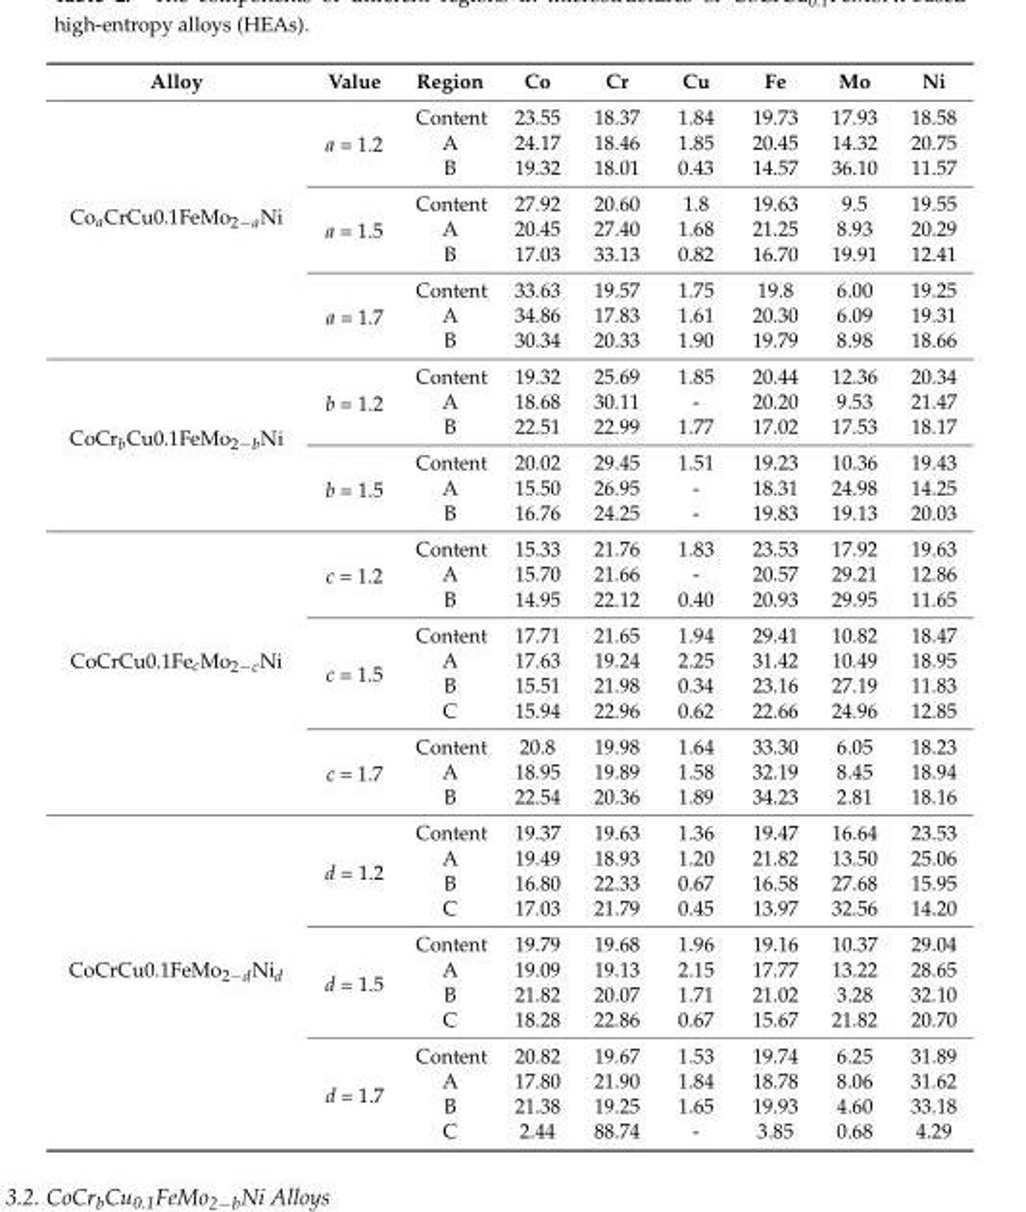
<table><thead><tr><td>Alloy</td><td>Value</td><td>Region</td><td>Co</td><td>Cr</td><td>Cu</td><td>Fe</td><td>Mo</td><td>Ni</td></tr></thead><tbody><tr><td rowspan="9">Co<sub>a</sub>CrCu0.1FeMo<sub>2−a</sub>Ni</td><td rowspan="3">a = 1.2</td><td>Content</td><td>23.55</td><td>18.37</td><td>1.84</td><td>19.73</td><td>17.93</td><td>18.58</td></tr><tr><td>A</td><td>24.17</td><td>18.46</td><td>1.85</td><td>20.45</td><td>14.32</td><td>20.75</td></tr><tr><td>B</td><td>19.32</td><td>18.01</td><td>0.43</td><td>14.57</td><td>36.10</td><td>11.57</td></tr><tr><td rowspan="3">a = 1.5</td><td>Content</td><td>27.92</td><td>20.60</td><td>1.8</td><td>19.63</td><td>9.5</td><td>19.55</td></tr><tr><td>A</td><td>20.45</td><td>27.40</td><td>1.68</td><td>21.25</td><td>8.93</td><td>20.29</td></tr><tr><td>B</td><td>17.03</td><td>33.13</td><td>0.82</td><td>16.70</td><td>19.91</td><td>12.41</td></tr><tr><td rowspan="3">a = 1.7</td><td>Content</td><td>33.63</td><td>19.57</td><td>1.75</td><td>19.8</td><td>6.00</td><td>19.25</td></tr><tr><td>A</td><td>34.86</td><td>17.83</td><td>1.61</td><td>20.30</td><td>6.09</td><td>19.31</td></tr><tr><td>B</td><td>30.34</td><td>20.33</td><td>1.90</td><td>19.79</td><td>8.98</td><td>18.66</td></tr><tr><td rowspan="6">CoCr<sub>b</sub>Cu0.1FeMo<sub>2−b</sub>Ni</td><td rowspan="3">b = 1.2</td><td>Content</td><td>19.32</td><td>25.69</td><td>1.85</td><td>20.44</td><td>12.36</td><td>20.34</td></tr><tr><td>A</td><td>18.68</td><td>30.11</td><td>-</td><td>20.20</td><td>9.53</td><td>21.47</td></tr><tr><td>B</td><td>22.51</td><td>22.99</td><td>1.77</td><td>17.02</td><td>17.53</td><td>18.17</td></tr><tr><td rowspan="3">b = 1.5</td><td>Content</td><td>20.02</td><td>29.45</td><td>1.51</td><td>19.23</td><td>10.36</td><td>19.43</td></tr><tr><td>A</td><td>15.50</td><td>26.95</td><td>-</td><td>18.31</td><td>24.98</td><td>14.25</td></tr><tr><td>B</td><td>16.76</td><td>24.25</td><td>-</td><td>19.83</td><td>19.13</td><td>20.03</td></tr><tr><td rowspan="10">CoCrCu0.1Fe<sub>c</sub>Mo<sub>2−c</sub>Ni</td><td rowspan="3">c = 1.2</td><td>Content</td><td>15.33</td><td>21.76</td><td>1.83</td><td>23.53</td><td>17.92</td><td>19.63</td></tr><tr><td>A</td><td>15.70</td><td>21.66</td><td>-</td><td>20.57</td><td>29.21</td><td>12.86</td></tr><tr><td>B</td><td>14.95</td><td>22.12</td><td>0.40</td><td>20.93</td><td>29.95</td><td>11.65</td></tr><tr><td rowspan="4">c = 1.5</td><td>Content</td><td>17.71</td><td>21.65</td><td>1.94</td><td>29.41</td><td>10.82</td><td>18.47</td></tr><tr><td>A</td><td>17.63</td><td>19.24</td><td>2.25</td><td>31.42</td><td>10.49</td><td>18.95</td></tr><tr><td>B</td><td>15.51</td><td>21.98</td><td>0.34</td><td>23.16</td><td>27.19</td><td>11.83</td></tr><tr><td>C</td><td>15.94</td><td>22.96</td><td>0.62</td><td>22.66</td><td>24.96</td><td>12.85</td></tr><tr><td rowspan="3">c = 1.7</td><td>Content</td><td>20.8</td><td>19.98</td><td>1.64</td><td>33.30</td><td>6.05</td><td>18.23</td></tr><tr><td>A</td><td>18.95</td><td>19.89</td><td>1.58</td><td>32.19</td><td>8.45</td><td>18.94</td></tr><tr><td>B</td><td>22.54</td><td>20.36</td><td>1.89</td><td>34.23</td><td>2.81</td><td>18.16</td></tr><tr><td rowspan="12">CoCrCu0.1FeMo<sub>2−d</sub>Ni<sub>d</sub></td><td rowspan="4">d = 1.2</td><td>Content</td><td>19.37</td><td>19.63</td><td>1.36</td><td>19.47</td><td>16.64</td><td>23.53</td></tr><tr><td>A</td><td>19.49</td><td>18.93</td><td>1.20</td><td>21.82</td><td>13.50</td><td>25.06</td></tr><tr><td>B</td><td>16.80</td><td>22.33</td><td>0.67</td><td>16.58</td><td>27.68</td><td>15.95</td></tr><tr><td>C</td><td>17.03</td><td>21.79</td><td>0.45</td><td>13.97</td><td>32.56</td><td>14.20</td></tr><tr><td rowspan="4">d = 1.5</td><td>Content</td><td>19.79</td><td>19.68</td><td>1.96</td><td>19.16</td><td>10.37</td><td>29.04</td></tr><tr><td>A</td><td>19.09</td><td>19.13</td><td>2.15</td><td>17.77</td><td>13.22</td><td>28.65</td></tr><tr><td>B</td><td>21.82</td><td>20.07</td><td>1.71</td><td>21.02</td><td>3.28</td><td>32.10</td></tr><tr><td>C</td><td>18.28</td><td>22.86</td><td>0.67</td><td>15.67</td><td>21.82</td><td>20.70</td></tr><tr><td rowspan="4">d = 1.7</td><td>Content</td><td>20.82</td><td>19.67</td><td>1.53</td><td>19.74</td><td>6.25</td><td>31.89</td></tr><tr><td>A</td><td>17.80</td><td>21.90</td><td>1.84</td><td>18.78</td><td>8.06</td><td>31.62</td></tr><tr><td>B</td><td>21.38</td><td>19.25</td><td>1.65</td><td>19.93</td><td>4.60</td><td>33.18</td></tr><tr><td>C</td><td>2.44</td><td>88.74</td><td>-</td><td>3.85</td><td>0.68</td><td>4.29</td></tr></tbody></table>